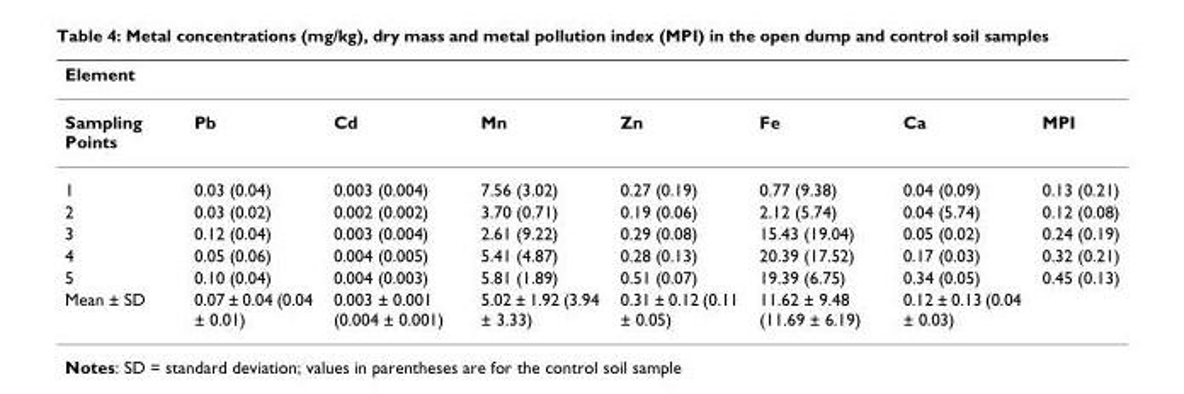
<table><thead><tr><td colspan="8">Element</td></tr><tr><td>Sampling Points</td><td>Pb</td><td>Cd</td><td>Mn</td><td>Zn</td><td>Fe</td><td>Ca</td><td>MPI</td></tr></thead><tbody><tr><td>1</td><td>0.03 (0.04)</td><td>0.003 (0.004)</td><td>7.56 (3.02)</td><td>0.27 (0.19)</td><td>0.77 (9.38)</td><td>0.04 (0.09)</td><td>0.13 (0.21)</td></tr><tr><td>2</td><td>0.03 (0.02)</td><td>0.002 (0.002)</td><td>3.70 (0.71)</td><td>0.19 (0.06)</td><td>2.12 (5.74)</td><td>0.04 (5.74)</td><td>0.12 (0.08)</td></tr><tr><td>3</td><td>0.12 (0.04)</td><td>0.003 (0.004)</td><td>2.61 (9.22)</td><td>0.29 (0.08)</td><td>15.43 (19.04)</td><td>0.05 (0.02)</td><td>0.24 (0.19)</td></tr><tr><td>4</td><td>0.05 (0.06)</td><td>0.004 (0.005)</td><td>5.41 (4.87)</td><td>0.28 (0.13)</td><td>20.39 (17.52)</td><td>0.17 (0.03)</td><td>0.32 (0.21)</td></tr><tr><td>5</td><td>0.10 (0.04)</td><td>0.004 (0.003)</td><td>5.81 (1.89)</td><td>0.51 (0.07)</td><td>19.39 (6.75)</td><td>0.34 (0.05)</td><td>0.45 (0.13)</td></tr><tr><td>Mean ± SD</td><td>0.07 ± 0.04 (0.04 ± 0.01)</td><td>0.003 ± 0.001 (0.004 ± 0.001)</td><td>5.02 ± 1.92 (3.94 ± 3.33)</td><td>0.31 ± 0.12 (0.11 ± 0.05)</td><td>11.62 ± 9.48 (11.69 ± 6.19)</td><td>0.12 ± 0.13 (0.04 ± 0.03)</td><td></td></tr></tbody></table>